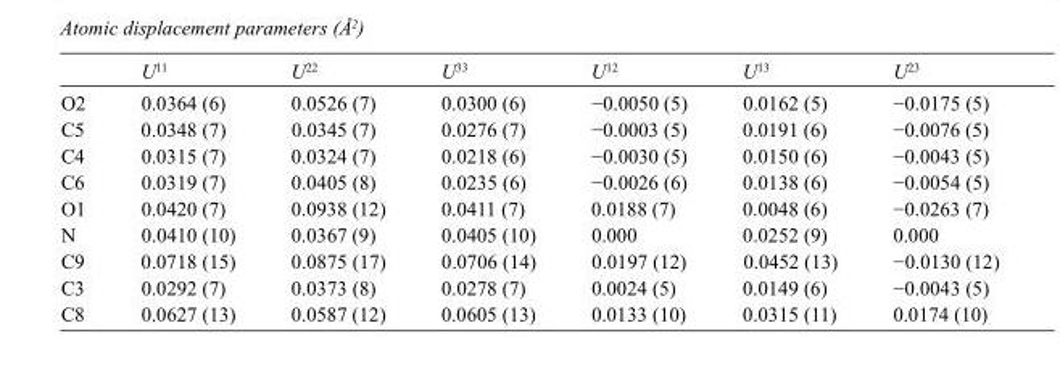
<table><thead><tr><td></td><td>U<sup>11</sup></td><td>U<sup>22</sup></td><td>U<sup>33</sup></td><td>U<sup>12</sup></td><td>U<sup>13</sup></td><td>U<sup>23</sup></td></tr></thead><tbody><tr><td>O2</td><td>0.0364 (6)</td><td>0.0526 (7)</td><td>0.0300 (6)</td><td>−0.0050 (5)</td><td>0.0162 (5)</td><td>−0.0175 (5)</td></tr><tr><td>C5</td><td>0.0348 (7)</td><td>0.0345 (7)</td><td>0.0276 (7)</td><td>−0.0003 (5)</td><td>0.0191 (6)</td><td>−0.0076 (5)</td></tr><tr><td>C4</td><td>0.0315 (7)</td><td>0.0324 (7)</td><td>0.0218 (6)</td><td>−0.0030 (5)</td><td>0.0150 (6)</td><td>−0.0043 (5)</td></tr><tr><td>C6</td><td>0.0319 (7)</td><td>0.0405 (8)</td><td>0.0235 (6)</td><td>−0.0026 (6)</td><td>0.0138 (6)</td><td>−0.0054 (5)</td></tr><tr><td>O1</td><td>0.0420 (7)</td><td>0.0938 (12)</td><td>0.0411 (7)</td><td>0.0188 (7)</td><td>0.0048 (6)</td><td>−0.0263 (7)</td></tr><tr><td>N</td><td>0.0410 (10)</td><td>0.0367 (9)</td><td>0.0405 (10)</td><td>0.000</td><td>0.0252 (9)</td><td>0.000</td></tr><tr><td>C9</td><td>0.0718 (15)</td><td>0.0875 (17)</td><td>0.0706 (14)</td><td>0.0197 (12)</td><td>0.0452 (13)</td><td>−0.0130 (12)</td></tr><tr><td>C3</td><td>0.0292 (7)</td><td>0.0373 (8)</td><td>0.0278 (7)</td><td>0.0024 (5)</td><td>0.0149 (6)</td><td>−0.0043 (5)</td></tr><tr><td>C8</td><td>0.0627 (13)</td><td>0.0587 (12)</td><td>0.0605 (13)</td><td>0.0133 (10)</td><td>0.0315 (11)</td><td>0.0174 (10)</td></tr></tbody></table>